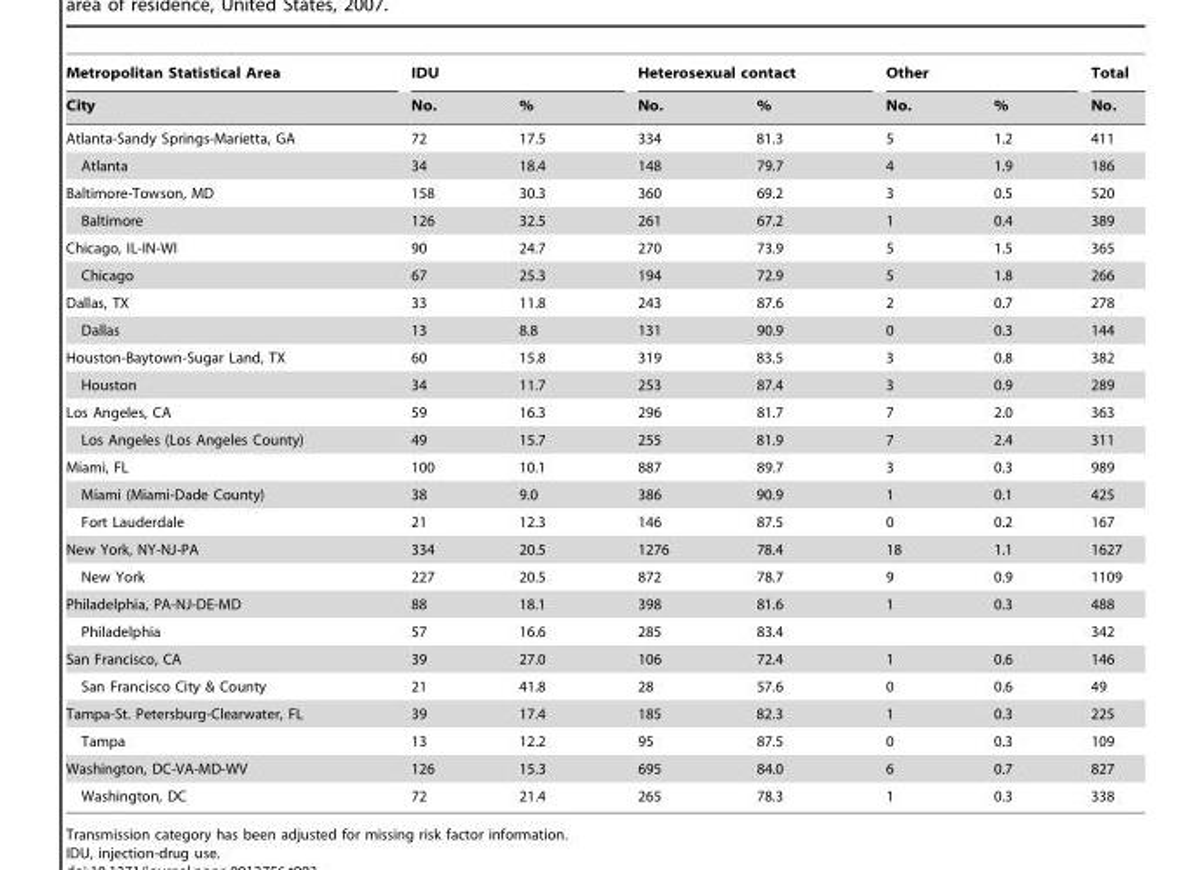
<table><thead><tr><td rowspan="2">Metropolitan Statistical Area City</td><td colspan="2">IDU</td><td colspan="2">Heterosexual contact</td><td colspan="2">Other</td><td rowspan="2">Total No.</td></tr><tr><td>No.</td><td>%</td><td>No.</td><td>%</td><td>No.</td><td>%</td></tr></thead><tbody><tr><td>Atlanta-Sandy Springs-Marietta, GA</td><td>72</td><td>17.5</td><td>334</td><td>81.3</td><td>5</td><td>1.2</td><td>411</td></tr><tr><td>Atlanta</td><td>34</td><td>18.4</td><td>148</td><td>79.7</td><td>4</td><td>1.9</td><td>186</td></tr><tr><td>Baltimore-Towson, MD</td><td>158</td><td>30.3</td><td>360</td><td>69.2</td><td>3</td><td>0.5</td><td>520</td></tr><tr><td>Baltimore</td><td>126</td><td>32.5</td><td>261</td><td>67.2</td><td>1</td><td>0.4</td><td>389</td></tr><tr><td>Chicago, IL-IN-WI</td><td>90</td><td>24.7</td><td>270</td><td>73.9</td><td>5</td><td>1.5</td><td>365</td></tr><tr><td>Chicago</td><td>67</td><td>25.3</td><td>194</td><td>72.9</td><td>5</td><td>1.8</td><td>266</td></tr><tr><td>Dallas, TX</td><td>33</td><td>11.8</td><td>243</td><td>87.6</td><td>2</td><td>0.7</td><td>278</td></tr><tr><td>Dallas</td><td>13</td><td>8.8</td><td>131</td><td>90.9</td><td>0</td><td>0.3</td><td>144</td></tr><tr><td>Houston-Baytown-Sugar Land, TX</td><td>60</td><td>15.8</td><td>319</td><td>83.5</td><td>3</td><td>0.8</td><td>382</td></tr><tr><td>Houston</td><td>34</td><td>11.7</td><td>253</td><td>87.4</td><td>3</td><td>0.9</td><td>289</td></tr><tr><td>Los Angeles, CA</td><td>59</td><td>16.3</td><td>296</td><td>81.7</td><td>7</td><td>2.0</td><td>363</td></tr><tr><td>Los Angeles (Los Angeles County)</td><td>49</td><td>15.7</td><td>255</td><td>81.9</td><td>7</td><td>2.4</td><td>311</td></tr><tr><td>Miami, FL</td><td>100</td><td>10.1</td><td>887</td><td>89.7</td><td>3</td><td>0.3</td><td>989</td></tr><tr><td>Miami (Miami-Dade County)</td><td>38</td><td>9.0</td><td>386</td><td>90.9</td><td>1</td><td>0.1</td><td>425</td></tr><tr><td>Fort Lauderdale</td><td>21</td><td>12.3</td><td>146</td><td>87.5</td><td>0</td><td>0.2</td><td>167</td></tr><tr><td>New York, NY-NJ-PA</td><td>334</td><td>20.5</td><td>1276</td><td>78.4</td><td>18</td><td>1.1</td><td>1627</td></tr><tr><td>New York</td><td>227</td><td>20.5</td><td>872</td><td>78.7</td><td>9</td><td>0.9</td><td>1109</td></tr><tr><td>Philadelphia, PA-NJ-DE-MD</td><td>88</td><td>18.1</td><td>398</td><td>81.6</td><td>1</td><td>0.3</td><td>488</td></tr><tr><td>Philadelphia</td><td>57</td><td>16.6</td><td>285</td><td>83.4</td><td></td><td></td><td>342</td></tr><tr><td>San Francisco, CA</td><td>39</td><td>27.0</td><td>106</td><td>72.4</td><td>1</td><td>0.6</td><td>146</td></tr><tr><td>San Francisco City &amp; County</td><td>21</td><td>41.8</td><td>28</td><td>57.6</td><td>0</td><td>0.6</td><td>49</td></tr><tr><td>Tampa-St. Petersburg-Clearwater, FL</td><td>39</td><td>17.4</td><td>185</td><td>82.3</td><td>1</td><td>0.3</td><td>225</td></tr><tr><td>Tampa</td><td>13</td><td>12.2</td><td>95</td><td>87.5</td><td>0</td><td>0.3</td><td>109</td></tr><tr><td>Washington, DC-VA-MD-WV</td><td>126</td><td>15.3</td><td>695</td><td>84.0</td><td>6</td><td>0.7</td><td>827</td></tr><tr><td>Washington, DC</td><td>72</td><td>21.4</td><td>265</td><td>78.3</td><td>1</td><td>0.3</td><td>338</td></tr></tbody></table>